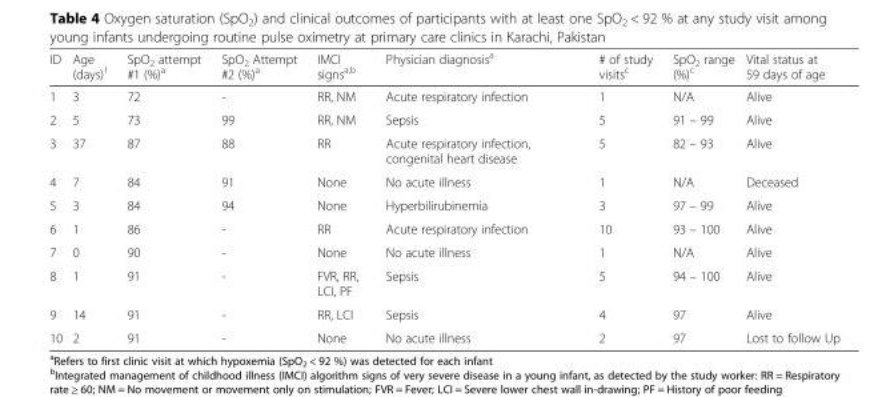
<table><thead><tr><td>ID</td><td>Age (days)<sup>1</sup></td><td>SpO<sub>2</sub> attempt #1 (%)<sup>a</sup></td><td>SpO<sub>2</sub> Attempt #2 (%)<sup>a</sup></td><td>IMCI signs<sup>a,b</sup></td><td>Physician diagnosis<sup>a</sup></td><td># of study visits<sup>c</sup></td><td>SpO<sub>2</sub> range (%)<sup>c</sup></td><td>Vital status at 59 days of age</td></tr></thead><tbody><tr><td>1</td><td>3</td><td>72</td><td>-</td><td>RR, NM</td><td>Acute respiratory infection</td><td>1</td><td>N/A</td><td>Alive</td></tr><tr><td>2</td><td>5</td><td>73</td><td>99</td><td>RR, NM</td><td>Sepsis</td><td>5</td><td>91 – 99</td><td>Alive</td></tr><tr><td>3</td><td>37</td><td>87</td><td>88</td><td>RR</td><td>Acute respiratory infection, congenital heart disease</td><td>5</td><td>82 – 93</td><td>Alive</td></tr><tr><td>4</td><td>7</td><td>84</td><td>91</td><td>None</td><td>No acute illness</td><td>1</td><td>N/A</td><td>Deceased</td></tr><tr><td>5</td><td>3</td><td>84</td><td>94</td><td>None</td><td>Hyperbilirubinemia</td><td>3</td><td>97 – 99</td><td>Alive</td></tr><tr><td>6</td><td>1</td><td>86</td><td>-</td><td>RR</td><td>Acute respiratory infection</td><td>10</td><td>93 – 100</td><td>Alive</td></tr><tr><td>7</td><td>0</td><td>90</td><td>-</td><td>None</td><td>No acute illness</td><td>1</td><td>N/A</td><td>Alive</td></tr><tr><td>8</td><td>1</td><td>91</td><td>-</td><td>FVR, RR, LCI, PF</td><td>Sepsis</td><td>5</td><td>94 – 100</td><td>Alive</td></tr><tr><td>9</td><td>14</td><td>91</td><td>-</td><td>RR, LCI</td><td>Sepsis</td><td>4</td><td>97</td><td>Alive</td></tr><tr><td>10</td><td>2</td><td>91</td><td>-</td><td>None</td><td>No acute illness</td><td>2</td><td>97</td><td>Lost to follow Up</td></tr></tbody></table>